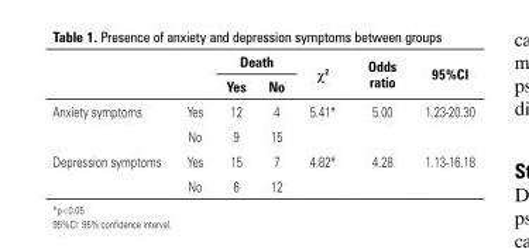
<table><thead><tr><td rowspan="2"></td><td rowspan="2"></td><td colspan="2">Death</td><td rowspan="2">χ<sup>2</sup></td><td rowspan="2">Odds ratio</td><td rowspan="2">95%CI</td></tr><tr><td>Yes</td><td>No</td></tr></thead><tbody><tr><td rowspan="2">Anxiety symptoms</td><td>Yes</td><td>12</td><td>4</td><td>5.41*</td><td>5.00</td><td>1.23-20.30</td></tr><tr><td>No</td><td>9</td><td>15</td><td></td><td></td><td></td></tr><tr><td rowspan="2">Depression symptoms</td><td>Yes</td><td>15</td><td>7</td><td>4.82*</td><td>4.28</td><td>1.13-16.18</td></tr><tr><td>No</td><td>6</td><td>12</td><td></td><td></td><td></td></tr></tbody></table>